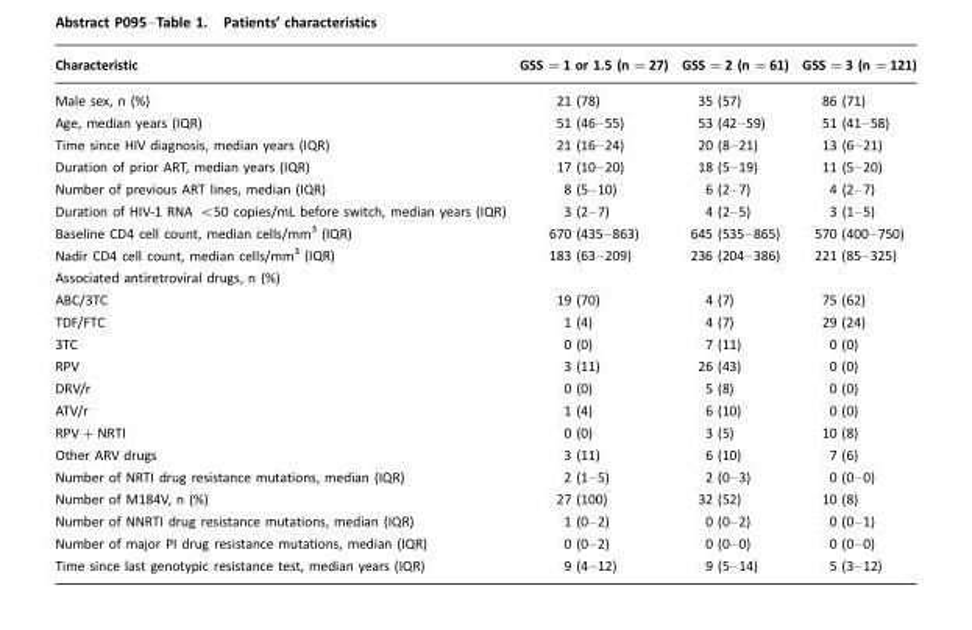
<table><thead><tr><td>Characteristic</td><td>GSS =1 or 1.5 (n =27)</td><td>GSS =2 (n =61)</td><td>GSS =3 (n =121)</td></tr></thead><tbody><tr><td>Male sex, n (%)</td><td>21 (78)</td><td>35 (57)</td><td>86 (71)</td></tr><tr><td>Age, median years (IQR)</td><td>51 (46–55)</td><td>53 (42–59)</td><td>51 (41–58)</td></tr><tr><td>Time since HIV diagnosis, median years (IQR)</td><td>21 (16–24)</td><td>20 (8–21)</td><td>13 (6–21)</td></tr><tr><td>Duration of prior ART, median years (IQR)</td><td>17 (10–20)</td><td>18 (5–19)</td><td>11 (5–20)</td></tr><tr><td>Number of previous ART lines, median (IQR)</td><td>8 (5–10)</td><td>6 (2–7)</td><td>4 (2–7)</td></tr><tr><td>Duration of HIV-1 RNA &lt;50 copies/mL before switch, median years (IQR)</td><td>3 (2–7)</td><td>4 (2–5)</td><td>3 (1–5)</td></tr><tr><td>Baseline CD4 cell count, median cells/mm3 (IQR)</td><td>670 (435–863)</td><td>645 (535–865)</td><td>570 (400–750)</td></tr><tr><td>Nadir CD4 cell count, median cells/mm3 (IQR)</td><td>183 (63–209)</td><td>236 (204–386)</td><td>221 (85–325)</td></tr><tr><td colspan="4">Associated antiretroviral drugs, n (%)</td></tr><tr><td>ABC/3TC</td><td>19 (70)</td><td>4 (7)</td><td>75 (62)</td></tr><tr><td>TDF/FTC</td><td>1 (4)</td><td>4 (7)</td><td>29 (24)</td></tr><tr><td>3TC</td><td>0 (0)</td><td>7 (11)</td><td>0 (0)</td></tr><tr><td>RPV</td><td>3 (11)</td><td>26 (43)</td><td>0 (0)</td></tr><tr><td>DRV/r</td><td>0 (0)</td><td>5 (8)</td><td>0 (0)</td></tr><tr><td>ATV/r</td><td>1 (4)</td><td>6 (10)</td><td>0 (0)</td></tr><tr><td>RPV+NRTI</td><td>0 (0)</td><td>3 (5)</td><td>10 (8)</td></tr><tr><td>Other ARV drugs</td><td>3 (11)</td><td>6 (10)</td><td>7 (6)</td></tr><tr><td>Number of NRTI drug resistance mutations, median (IQR)</td><td>2 (1–5)</td><td>2 (0–3)</td><td>0 (0–0)</td></tr><tr><td>Number of M184V, n (%)</td><td>27 (100)</td><td>32 (52)</td><td>10 (8)</td></tr><tr><td>Number of NNRTI drug resistance mutations, median (IQR)</td><td>1 (0–2)</td><td>0 (0–2)</td><td>0 (0–1)</td></tr><tr><td>Number of major PI drug resistance mutations, median (IQR)</td><td>0 (0–2)</td><td>0 (0–0)</td><td>0 (0–0)</td></tr><tr><td>Time since last genotypic resistance test, median years (IQR)</td><td>9 (4–12)</td><td>9 (5–14)</td><td>5 (3–12)</td></tr></tbody></table>